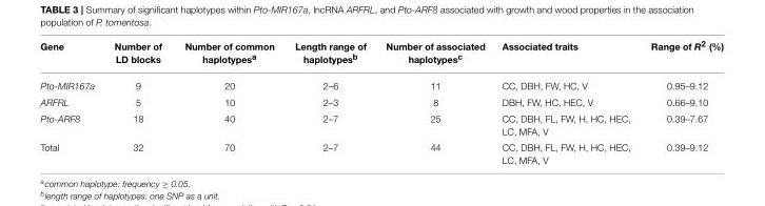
<table><thead><tr><td>Gene</td><td>Number of LD blocks</td><td>Number of common haplotypes<sup>a</sup></td><td>Length range of haplotypes<sup>b</sup></td><td>Number of associated haplotypes<sup>c</sup></td><td>Associated traits</td><td>Range of R<sup>2</sup> (%)</td></tr></thead><tbody><tr><td>Pto-MIR167a</td><td>9</td><td>20</td><td>2–6</td><td>11</td><td>CC, DBH, FW, HC, V</td><td>0.95–9.12</td></tr><tr><td>ARFRL</td><td>5</td><td>10</td><td>2–3</td><td>8</td><td>DBH, FW, HC, HEC, V</td><td>0.66–9.10</td></tr><tr><td>Pto-ARF8</td><td>18</td><td>40</td><td>2–7</td><td>25</td><td>CC, DBH, FL, FW, H, HC, HEC, LC, MFA, V</td><td>0.39–7.67</td></tr><tr><td>Total</td><td>32</td><td>70</td><td>2–7</td><td>44</td><td>CC, DBH, FL, FW, H, HC, HEC, LC, MFA, V</td><td>0.39–9.12</td></tr></tbody></table>